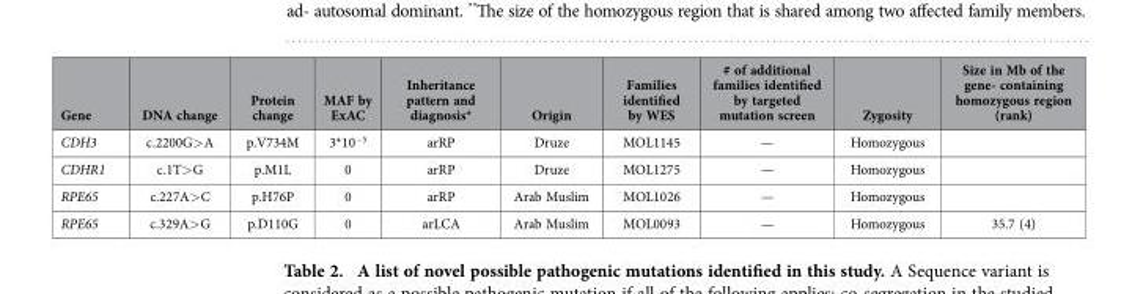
<table><thead><tr><td>Gene</td><td>DNA change</td><td>Protein change</td><td>MAF by ExAC</td><td>Inheritance pattern and diagnosis*</td><td>Origin</td><td>Families identified by WES</td><td># of additional families identified by targeted mutation screen</td><td>Zygosity</td><td>Size in Mb of the gene- containing homozygous region (rank)</td></tr></thead><tbody><tr><td>CDH3</td><td>c.2200G&gt; A</td><td>p.V734M</td><td>3*10<sup>−5</sup></td><td>arRP</td><td>Druze</td><td>MOL1145</td><td>—</td><td>Homozygous</td><td></td></tr><tr><td>CDHR1</td><td>c.1T&gt; G</td><td>p.M1L</td><td>0</td><td>arRP</td><td>Druze</td><td>MOL1275</td><td>—</td><td>Homozygous</td><td></td></tr><tr><td>RPE65</td><td>c.227A&gt; C</td><td>p.H76P</td><td>0</td><td>arRP</td><td>Arab Muslim</td><td>MOL1026</td><td>—</td><td>Homozygous</td><td></td></tr><tr><td>RPE65</td><td>c.329A&gt; G</td><td>p.D110G</td><td>0</td><td>arLCA</td><td>Arab Muslim</td><td>MOL0093</td><td>—</td><td>Homozygous</td><td>35.7 (4)</td></tr></tbody></table>